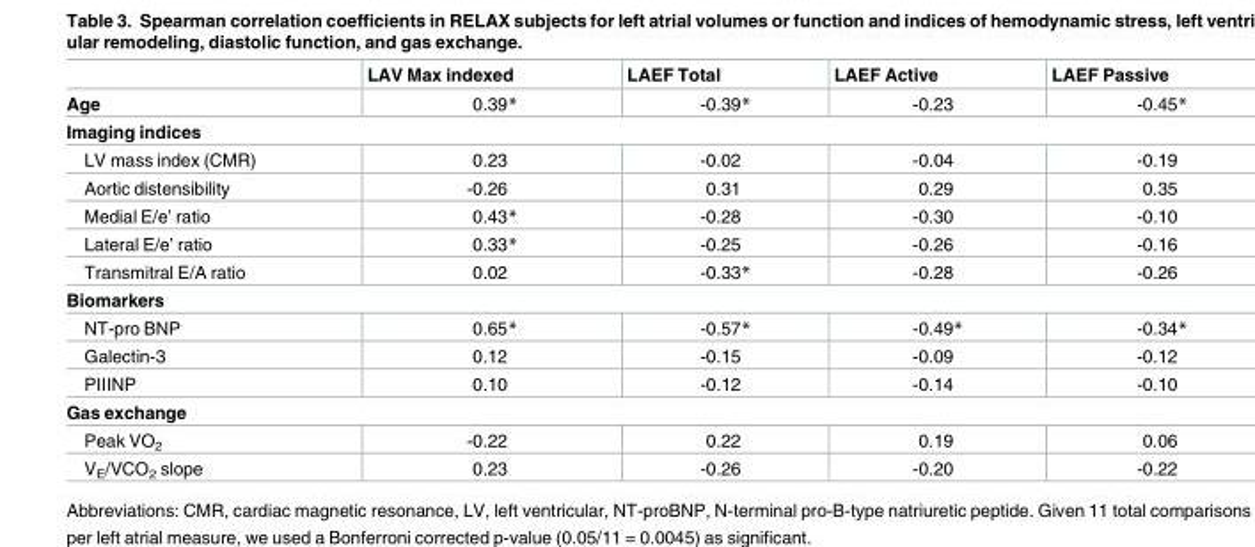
<table><thead><tr><td></td><td>LAV Max indexed</td><td>LAEF Total</td><td>LAEF Active</td><td>LAEF Passive</td></tr></thead><tbody><tr><td>Age</td><td>0.39*</td><td>-0.39*</td><td>-0.23</td><td>-0.45*</td></tr><tr><td colspan="5">Imaging indices</td></tr><tr><td>LV mass index (CMR)</td><td>0.23</td><td>-0.02</td><td>-0.04</td><td>-0.19</td></tr><tr><td>Aortic distensibility</td><td>-0.26</td><td>0.31</td><td>0.29</td><td>0.35</td></tr><tr><td>Medial E/e’ ratio</td><td>0.43*</td><td>-0.28</td><td>-0.30</td><td>-0.10</td></tr><tr><td>Lateral E/e’ ratio</td><td>0.33*</td><td>-0.25</td><td>-0.26</td><td>-0.16</td></tr><tr><td>Transmitral E/A ratio</td><td>0.02</td><td>-0.33*</td><td>-0.28</td><td>-0.26</td></tr><tr><td colspan="5">Biomarkers</td></tr><tr><td>NT-pro BNP</td><td>0.65*</td><td>-0.57*</td><td>-0.49*</td><td>-0.34*</td></tr><tr><td>Galectin-3</td><td>0.12</td><td>-0.15</td><td>-0.09</td><td>-0.12</td></tr><tr><td>PIIINP</td><td>0.10</td><td>-0.12</td><td>-0.14</td><td>-0.10</td></tr><tr><td colspan="5">Gas exchange</td></tr><tr><td>Peak VO<sub>2</sub></td><td>-0.22</td><td>0.22</td><td>0.19</td><td>0.06</td></tr><tr><td>V<sub>E</sub>/VCO<sub>2</sub> slope</td><td>0.23</td><td>-0.26</td><td>-0.20</td><td>-0.22</td></tr></tbody></table>